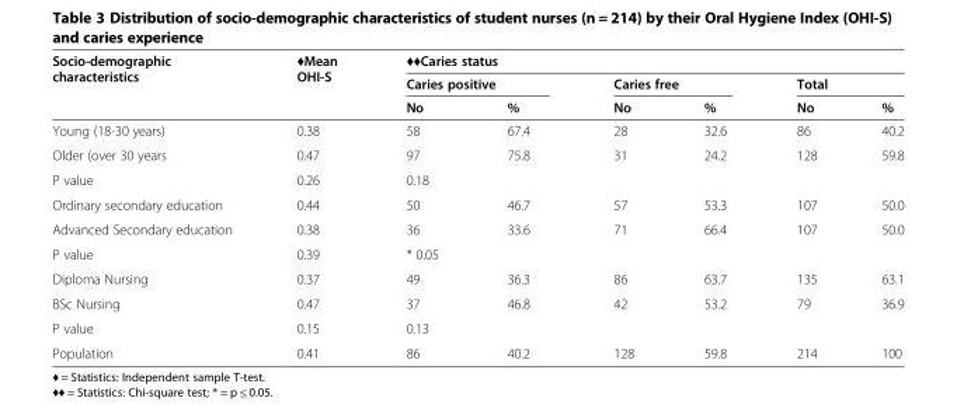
<table><thead><tr><td rowspan="3">Socio-demographic characteristics</td><td rowspan="3">♦Mean OHI-S</td><td colspan="6">♦♦Caries status</td></tr><tr><td colspan="2">Caries positive</td><td colspan="2">Caries free</td><td colspan="2">Total</td></tr><tr><td>No</td><td>%</td><td>No</td><td>%</td><td>No</td><td>%</td></tr></thead><tbody><tr><td>Young (18-30 years)</td><td>0.38</td><td>58</td><td>67.4</td><td>28</td><td>32.6</td><td>86</td><td>40.2</td></tr><tr><td>Older (over 30 years</td><td>0.47</td><td>97</td><td>75.8</td><td>31</td><td>24.2</td><td>128</td><td>59.8</td></tr><tr><td>P value</td><td>0.26</td><td colspan="4">0.18</td><td></td><td></td></tr><tr><td>Ordinary secondary education</td><td>0.44</td><td>50</td><td>46.7</td><td>57</td><td>53.3</td><td>107</td><td>50.0</td></tr><tr><td>Advanced Secondary education</td><td>0.38</td><td>36</td><td>33.6</td><td>71</td><td>66.4</td><td>107</td><td>50.0</td></tr><tr><td>P value</td><td>0.39</td><td colspan="6">* 0.05</td></tr><tr><td>Diploma Nursing</td><td>0.37</td><td>49</td><td>36.3</td><td>86</td><td>63.7</td><td>135</td><td>63.1</td></tr><tr><td>BSc Nursing</td><td>0.47</td><td>37</td><td>46.8</td><td>42</td><td>53.2</td><td>79</td><td>36.9</td></tr><tr><td>P value</td><td>0.15</td><td colspan="4">0.13</td><td></td><td></td></tr><tr><td>Population</td><td>0.41</td><td>86</td><td>40.2</td><td>128</td><td>59.8</td><td>214</td><td>100</td></tr></tbody></table>